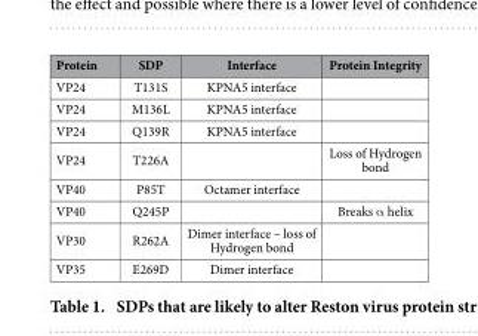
<table><thead><tr><td>Protein</td><td>SDP</td><td>Interface</td><td>Protein Integrity</td></tr></thead><tbody><tr><td>VP24</td><td>T131S</td><td>KPNA5 interface</td><td></td></tr><tr><td>VP24</td><td>M136L</td><td>KPNA5 interface</td><td></td></tr><tr><td>VP24</td><td>Q139R</td><td>KPNA5 interface</td><td></td></tr><tr><td>VP24</td><td>T226A</td><td></td><td>Loss of Hydrogen bond</td></tr><tr><td>VP40</td><td>P85T</td><td>Octamer interface</td><td></td></tr><tr><td>VP40</td><td>Q245P</td><td></td><td>Breaks α helix</td></tr><tr><td>VP30</td><td>R262A</td><td>Dimer interface – loss of Hydrogen bond</td><td></td></tr><tr><td>VP35</td><td>E269D</td><td>Dimer interface</td><td></td></tr></tbody></table>